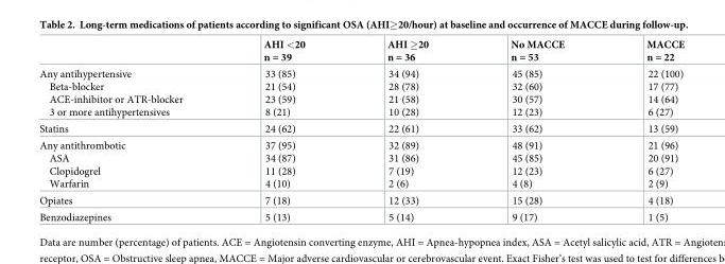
<table><thead><tr><td></td><td>AHI &lt;20 n = 39</td><td>AHI ≥20 n = 36</td><td>No MACCE n = 53</td><td>MACCE n = 22</td></tr></thead><tbody><tr><td>Any antihypertensive Beta-blocker ACE-inhibitor or ATR-blocker 3 or more antihypertensives</td><td>33 (85) 21 (54) 23 (59) 8 (21)</td><td>34 (94) 28 (78) 21 (58) 10 (28)</td><td>45 (85) 32 (60) 30 (57) 12 (23)</td><td>22 (100) 17 (77) 14 (64) 6 (27)</td></tr><tr><td>Statins</td><td>24 (62)</td><td>22 (61)</td><td>33 (62)</td><td>13 (59)</td></tr><tr><td>Any antithrombotic ASA Clopidogrel Warfarin</td><td>37 (95) 34 (87) 11 (28) 4 (10)</td><td>32 (89) 31 (86) 7 (19) 2 (6)</td><td>48 (91) 45 (85) 12 (23) 4 (8)</td><td>21 (96) 20 (91) 6 (27) 2 (9)</td></tr><tr><td>Opiates</td><td>7 (18)</td><td>12 (33)</td><td>15 (28)</td><td>4 (18)</td></tr><tr><td>Benzodiazepines</td><td>5 (13)</td><td>5 (14)</td><td>9 (17)</td><td>1 (5)</td></tr></tbody></table>